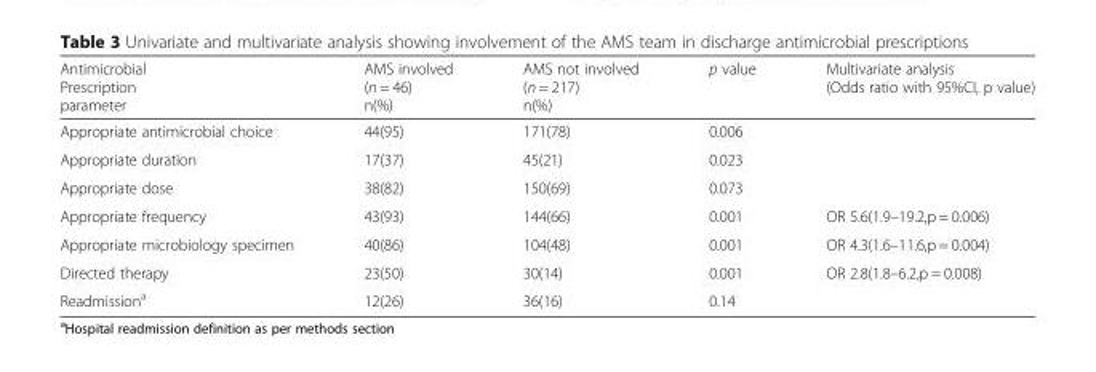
<table><thead><tr><td>Antimicrobial Prescription parameter</td><td>AMS involved (n = 46) n(%)</td><td>AMS not involved (n = 217) n(%)</td><td>p value</td><td>Multivariate analysis (Odds ratio with 95%CI, p value)</td></tr></thead><tbody><tr><td>Appropriate antimicrobial choice</td><td>44(95)</td><td>171(78)</td><td>0.006</td><td></td></tr><tr><td>Appropriate duration</td><td>17(37)</td><td>45(21)</td><td>0.023</td><td></td></tr><tr><td>Appropriate dose</td><td>38(82)</td><td>150(69)</td><td>0.073</td><td></td></tr><tr><td>Appropriate frequency</td><td>43(93)</td><td>144(66)</td><td>0.001</td><td>OR 5.6(1.9–19.2,p = 0.006)</td></tr><tr><td>Appropriate microbiology specimen</td><td>40(86)</td><td>104(48)</td><td>0.001</td><td>OR 4.3(1.6–11.6,p = 0.004)</td></tr><tr><td>Directed therapy</td><td>23(50)</td><td>30(14)</td><td>0.001</td><td>OR 2.8(1.8–6.2,p = 0.008)</td></tr><tr><td>Readmission<sup>a</sup></td><td>12(26)</td><td>36(16)</td><td>0.14</td><td></td></tr></tbody></table>